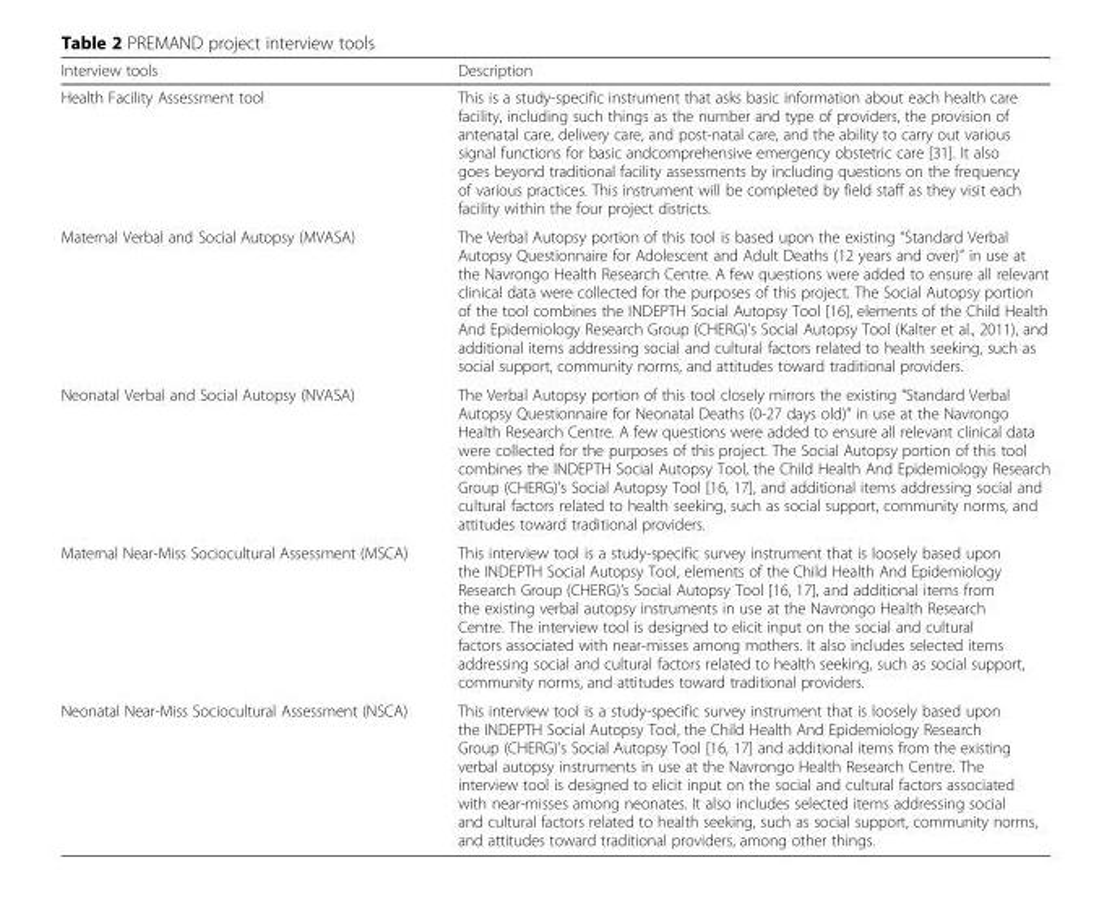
<table><thead><tr><td>Interview tools</td><td>Description</td></tr></thead><tbody><tr><td>Health Facility Assessment tool</td><td>This is a study-specific instrument that asks basic information about each health care facility, including such things as the number and type of providers, the provision of antenatal care, delivery care, and post-natal care, and the ability to carry out various signal functions for basic andcomprehensive emergency obstetric care [31]. It also goes beyond traditional facility assessments by including questions on the frequency of various practices. This instrument will be completed by field staff as they visit each facility within the four project districts.</td></tr><tr><td>Maternal Verbal and Social Autopsy (MVASA)</td><td>The Verbal Autopsy portion of this tool is based upon the existing “Standard Verbal Autopsy Questionnaire for Adolescent and Adult Deaths (12 years and over)” in use at the Navrongo Health Research Centre. A few questions were added to ensure all relevant clinical data were collected for the purposes of this project. The Social Autopsy portion of the tool combines the INDEPTH Social Autopsy Tool [16], elements of the Child Health And Epidemiology Research Group (CHERG)’s Social Autopsy Tool (Kalter et al., 2011), and additional items addressing social and cultural factors related to health seeking, such as social support, community norms, and attitudes toward traditional providers.</td></tr><tr><td>Neonatal Verbal and Social Autopsy (NVASA)</td><td>The Verbal Autopsy portion of this tool closely mirrors the existing “Standard Verbal Autopsy Questionnaire for Neonatal Deaths (0-27 days old)” in use at the Navrongo Health Research Centre. A few questions were added to ensure all relevant clinical data were collected for the purposes of this project. The Social Autopsy portion of this tool combines the INDEPTH Social Autopsy Tool, the Child Health And Epidemiology Research Group (CHERG)’s Social Autopsy Tool [16, 17], and additional items addressing social and cultural factors related to health seeking, such as social support, community norms, and attitudes toward traditional providers.</td></tr><tr><td>Maternal Near-Miss Sociocultural Assessment (MSCA)</td><td>This interview tool is a study-specific survey instrument that is loosely based upon the INDEPTH Social Autopsy Tool, elements of the Child Health And Epidemiology Research Group (CHERG)’s Social Autopsy Tool [16, 17], and additional items from the existing verbal autopsy instruments in use at the Navrongo Health Research Centre. The interview tool is designed to elicit input on the social and cultural factors associated with near-misses among mothers. It also includes selected items addressing social and cultural factors related to health seeking, such as social support, community norms, and attitudes toward traditional providers.</td></tr><tr><td>Neonatal Near-Miss Sociocultural Assessment (NSCA)</td><td>This interview tool is a study-specific survey instrument that is loosely based upon the INDEPTH Social Autopsy Tool, the Child Health And Epidemiology Research Group (CHERG)’s Social Autopsy Tool [16, 17] and additional items from the existing verbal autopsy instruments in use at the Navrongo Health Research Centre. The interview tool is designed to elicit input on the social and cultural factors associated with near-misses among neonates. It also includes selected items addressing social and cultural factors related to health seeking, such as social support, community norms, and attitudes toward traditional providers, among other things.</td></tr></tbody></table>